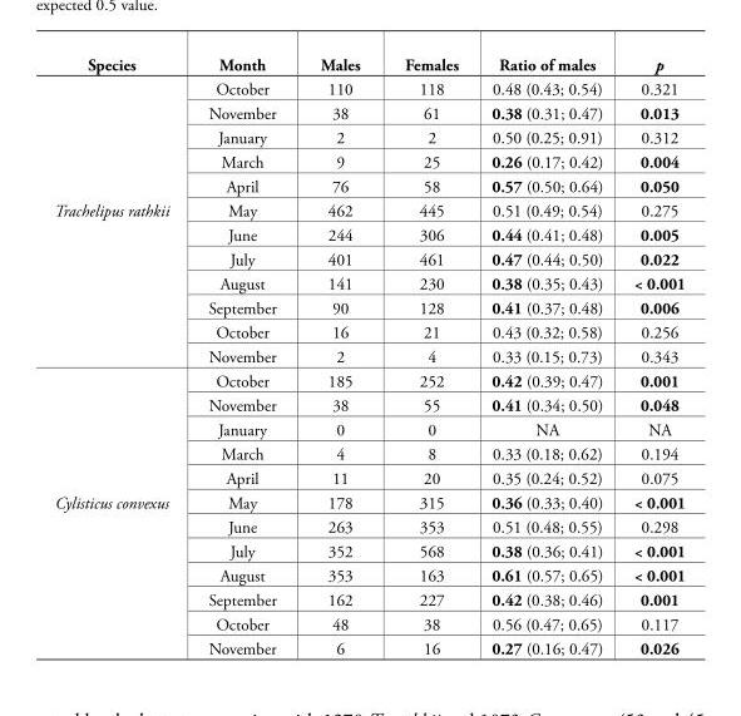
<table><thead><tr><td>Species</td><td>Month</td><td>Males</td><td>Females</td><td>Ratio of males</td><td>p</td></tr></thead><tbody><tr><td rowspan="12">Trachelipus rathkii</td><td>October</td><td>110</td><td>118</td><td>0.48 (0.43; 0.54)</td><td>0.321</td></tr><tr><td>November</td><td>38</td><td>61</td><td>0.38 (0.31; 0.47)</td><td>0.013</td></tr><tr><td>January</td><td>2</td><td>2</td><td>0.50 (0.25; 0.91)</td><td>0.312</td></tr><tr><td>March</td><td>9</td><td>25</td><td>0.26 (0.17; 0.42)</td><td>0.004</td></tr><tr><td>April</td><td>76</td><td>58</td><td>0.57 (0.50; 0.64)</td><td>0.050</td></tr><tr><td>May</td><td>462</td><td>445</td><td>0.51 (0.49; 0.54)</td><td>0.275</td></tr><tr><td>June</td><td>244</td><td>306</td><td>0.44 (0.41; 0.48)</td><td>0.005</td></tr><tr><td>July</td><td>401</td><td>461</td><td>0.47 (0.44; 0.50)</td><td>0.022</td></tr><tr><td>August</td><td>141</td><td>230</td><td>0.38 (0.35; 0.43)</td><td>&lt; 0.001</td></tr><tr><td>September</td><td>90</td><td>128</td><td>0.41 (0.37; 0.48)</td><td>0.006</td></tr><tr><td>October</td><td>16</td><td>21</td><td>0.43 (0.32; 0.58)</td><td>0.256</td></tr><tr><td>November</td><td>2</td><td>4</td><td>0.33 (0.15; 0.73)</td><td>0.343</td></tr><tr><td rowspan="12">Cylisticus convexus</td><td>October</td><td>185</td><td>252</td><td>0.42 (0.39; 0.47)</td><td>0.001</td></tr><tr><td>November</td><td>38</td><td>55</td><td>0.41 (0.34; 0.50)</td><td>0.048</td></tr><tr><td>January</td><td>0</td><td>0</td><td>NA</td><td>NA</td></tr><tr><td>March</td><td>4</td><td>8</td><td>0.33 (0.18; 0.62)</td><td>0.194</td></tr><tr><td>April</td><td>11</td><td>20</td><td>0.35 (0.24; 0.52)</td><td>0.075</td></tr><tr><td>May</td><td>178</td><td>315</td><td>0.36 (0.33; 0.40)</td><td>&lt; 0.001</td></tr><tr><td>June</td><td>263</td><td>353</td><td>0.51 (0.48; 0.55)</td><td>0.298</td></tr><tr><td>July</td><td>352</td><td>568</td><td>0.38 (0.36; 0.41)</td><td>&lt; 0.001</td></tr><tr><td>August</td><td>353</td><td>163</td><td>0.61 (0.57; 0.65)</td><td>&lt; 0.001</td></tr><tr><td>September</td><td>162</td><td>227</td><td>0.42 (0.38; 0.46)</td><td>0.001</td></tr><tr><td>October</td><td>48</td><td>38</td><td>0.56 (0.47; 0.65)</td><td>0.117</td></tr><tr><td>November</td><td>6</td><td>16</td><td>0.27 (0.16; 0.47)</td><td>0.026</td></tr></tbody></table>